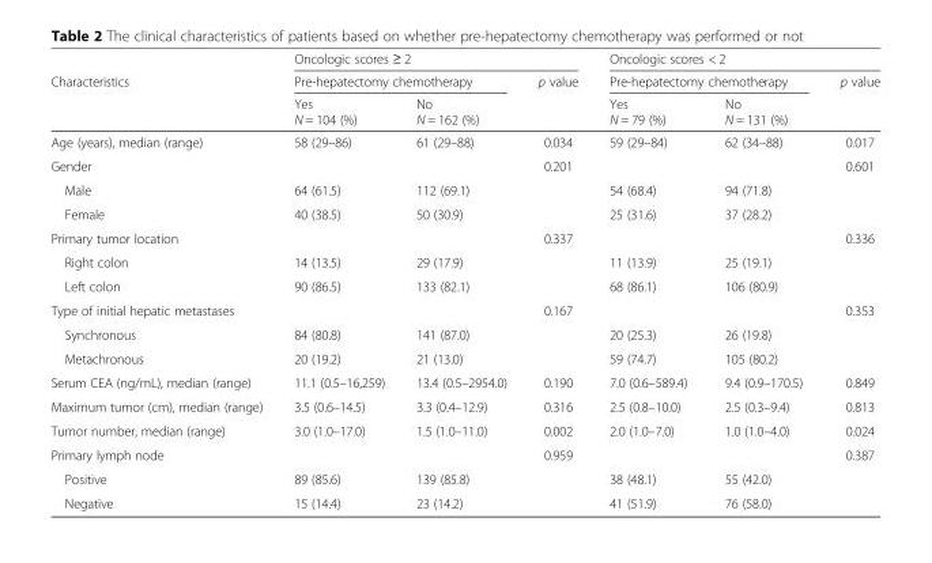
<table><thead><tr><td rowspan="3">Characteristics</td><td colspan="3">Oncologic scores ≥ 2</td><td colspan="3">Oncologic scores &lt; 2</td></tr><tr><td colspan="2">Pre-hepatectomy chemotherapy</td><td rowspan="2">p value</td><td colspan="2">Pre-hepatectomy chemotherapy</td><td rowspan="2">p value</td></tr><tr><td>Yes N = 104 (%)</td><td>No N = 162 (%)</td><td>Yes N = 79 (%)</td><td>No N = 131 (%)</td></tr></thead><tbody><tr><td>Age (years), median (range)</td><td>58 (29–86)</td><td>61 (29–88)</td><td>0.034</td><td>59 (29–84)</td><td>62 (34–88)</td><td>0.017</td></tr><tr><td>Gender</td><td></td><td></td><td>0.201</td><td></td><td></td><td>0.601</td></tr><tr><td>Male</td><td>64 (61.5)</td><td>112 (69.1)</td><td></td><td>54 (68.4)</td><td>94 (71.8)</td><td></td></tr><tr><td>Female</td><td>40 (38.5)</td><td>50 (30.9)</td><td></td><td>25 (31.6)</td><td>37 (28.2)</td><td></td></tr><tr><td>Primary tumor location</td><td></td><td></td><td>0.337</td><td></td><td></td><td>0.336</td></tr><tr><td>Right colon</td><td>14 (13.5)</td><td>29 (17.9)</td><td></td><td>11 (13.9)</td><td>25 (19.1)</td><td></td></tr><tr><td>Left colon</td><td>90 (86.5)</td><td>133 (82.1)</td><td></td><td>68 (86.1)</td><td>106 (80.9)</td><td></td></tr><tr><td>Type of initial hepatic metastases</td><td></td><td></td><td>0.167</td><td></td><td></td><td>0.353</td></tr><tr><td>Synchronous</td><td>84 (80.8)</td><td>141 (87.0)</td><td></td><td>20 (25.3)</td><td>26 (19.8)</td><td></td></tr><tr><td>Metachronous</td><td>20 (19.2)</td><td>21 (13.0)</td><td></td><td>59 (74.7)</td><td>105 (80.2)</td><td></td></tr><tr><td>Serum CEA (ng/mL), median (range)</td><td>11.1 (0.5–16,259)</td><td>13.4 (0.5–2954.0)</td><td>0.190</td><td>7.0 (0.6–589.4)</td><td>9.4 (0.9–170.5)</td><td>0.849</td></tr><tr><td>Maximum tumor (cm), median (range)</td><td>3.5 (0.6–14.5)</td><td>3.3 (0.4–12.9)</td><td>0.316</td><td>2.5 (0.8–10.0)</td><td>2.5 (0.3–9.4)</td><td>0.813</td></tr><tr><td>Tumor number, median (range)</td><td>3.0 (1.0–17.0)</td><td>1.5 (1.0–11.0)</td><td>0.002</td><td>2.0 (1.0–7.0)</td><td>1.0 (1.0–4.0)</td><td>0.024</td></tr><tr><td>Primary lymph node</td><td></td><td></td><td>0.959</td><td></td><td></td><td>0.387</td></tr><tr><td>Positive</td><td>89 (85.6)</td><td>139 (85.8)</td><td></td><td>38 (48.1)</td><td>55 (42.0)</td><td></td></tr><tr><td>Negative</td><td>15 (14.4)</td><td>23 (14.2)</td><td></td><td>41 (51.9)</td><td>76 (58.0)</td><td></td></tr></tbody></table>